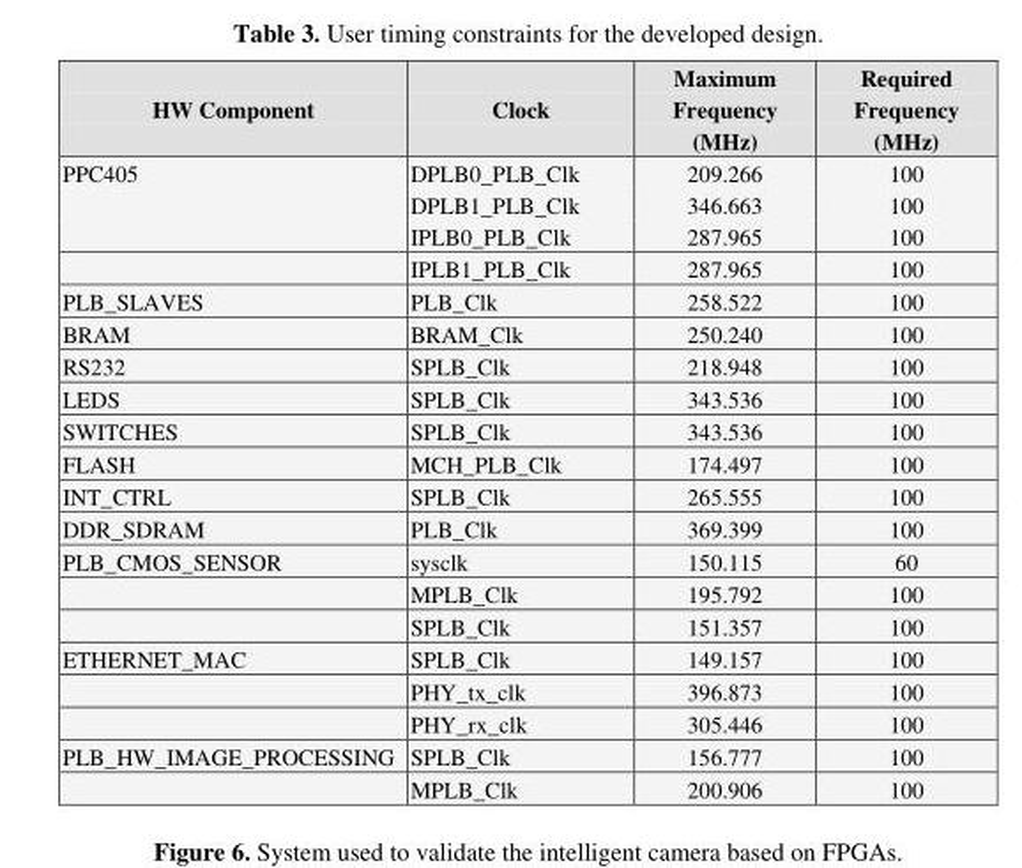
<table><thead><tr><td>HW Component</td><td>Clock</td><td>Maximum Frequency (MHz)</td><td>Required Frequency (MHz)</td></tr></thead><tbody><tr><td rowspan="2">PPC405</td><td>DPLB0_PLB_Clk DPLB1_PLB_Clk IPLB0_PLB_Clk</td><td>209.266 346.663 287.965</td><td>100 100 100</td></tr><tr><td>IPLB1_PLB_Clk</td><td>287.965</td><td>100</td></tr><tr><td>PLB_SLAVES</td><td>PLB_Clk</td><td>258.522</td><td>100</td></tr><tr><td>BRAM</td><td>BRAM_Clk</td><td>250.240</td><td>100</td></tr><tr><td>RS232</td><td>SPLB_Clk</td><td>218.948</td><td>100</td></tr><tr><td>LEDS</td><td>SPLB_Clk</td><td>343.536</td><td>100</td></tr><tr><td>SWITCHES</td><td>SPLB_Clk</td><td>343.536</td><td>100</td></tr><tr><td>FLASH</td><td>MCH_PLB_Clk</td><td>174.497</td><td>100</td></tr><tr><td>INT_CTRL</td><td>SPLB_Clk</td><td>265.555</td><td>100</td></tr><tr><td>DDR_SDRAM</td><td>PLB_Clk</td><td>369.399</td><td>100</td></tr><tr><td rowspan="3">PLB_CMOS_SENSOR</td><td>sysclk</td><td>150.115</td><td>60</td></tr><tr><td>MPLB_Clk</td><td>195.792</td><td>100</td></tr><tr><td>SPLB_Clk</td><td>151.357</td><td>100</td></tr><tr><td rowspan="3">ETHERNET_MAC</td><td>SPLB_Clk</td><td>149.157</td><td>100</td></tr><tr><td>PHY_tx_clk</td><td>396.873</td><td>100</td></tr><tr><td>PHY_rx_clk</td><td>305.446</td><td>100</td></tr><tr><td rowspan="2">PLB_HW_IMAGE_PROCESSING</td><td>SPLB_Clk</td><td>156.777</td><td>100</td></tr><tr><td>MPLB_Clk</td><td>200.906</td><td>100</td></tr></tbody></table>